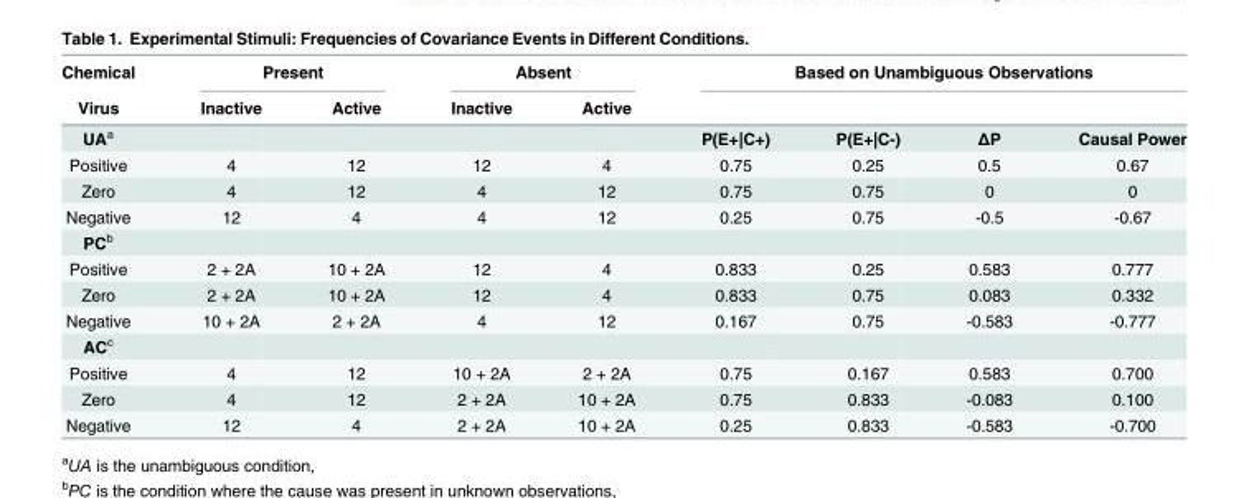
<table><thead><tr><td rowspan="2">Chemical Virus</td><td colspan="2">Present</td><td colspan="2">Absent</td><td colspan="4">Based on Unambiguous Observations</td></tr><tr><td>Inactive</td><td>Active</td><td>Inactive</td><td>Active</td><td></td><td></td><td></td><td></td></tr></thead><tbody><tr><td>UA<sup>a</sup></td><td></td><td></td><td></td><td></td><td>P(E+|C+)</td><td>P(E+|C-)</td><td>ΔP</td><td>Causal Power</td></tr><tr><td>Positive</td><td>4</td><td>12</td><td>12</td><td>4</td><td>0.75</td><td>0.25</td><td>0.5</td><td>0.67</td></tr><tr><td>Zero</td><td>4</td><td>12</td><td>4</td><td>12</td><td>0.75</td><td>0.75</td><td>0</td><td>0</td></tr><tr><td>Negative</td><td>12</td><td>4</td><td>4</td><td>12</td><td>0.25</td><td>0.75</td><td>-0.5</td><td>-0.67</td></tr><tr><td colspan="9">PC<sup>b</sup></td></tr><tr><td>Positive</td><td>2 + 2A</td><td>10 + 2A</td><td>12</td><td>4</td><td>0.833</td><td>0.25</td><td>0.583</td><td>0.777</td></tr><tr><td>Zero</td><td>2 + 2A</td><td>10 + 2A</td><td>12</td><td>4</td><td>0.833</td><td>0.75</td><td>0.083</td><td>0.332</td></tr><tr><td>Negative</td><td>10 + 2A</td><td>2 + 2A</td><td>4</td><td>12</td><td>0.167</td><td>0.75</td><td>-0.583</td><td>-0.777</td></tr><tr><td colspan="9">AC<sup>c</sup></td></tr><tr><td>Positive</td><td>4</td><td>12</td><td>10 + 2A</td><td>2 + 2A</td><td>0.75</td><td>0.167</td><td>0.583</td><td>0.700</td></tr><tr><td>Zero</td><td>4</td><td>12</td><td>2 + 2A</td><td>10 + 2A</td><td>0.75</td><td>0.833</td><td>-0.083</td><td>0.100</td></tr><tr><td>Negative</td><td>12</td><td>4</td><td>2 + 2A</td><td>10 + 2A</td><td>0.25</td><td>0.833</td><td>-0.583</td><td>-0.700</td></tr></tbody></table>